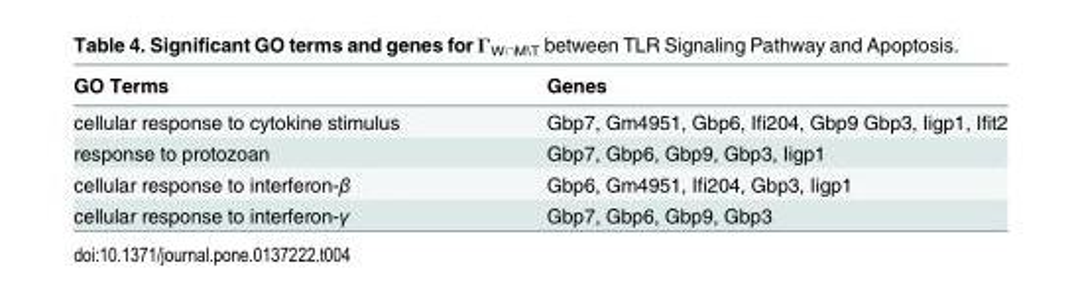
<table><thead><tr><td>GO Terms</td><td>Genes</td></tr></thead><tbody><tr><td>cellular response to cytokine stimulus</td><td>Gbp7, Gm4951, Gbp6, Ifi204, Gbp9 Gbp3, Iigp1, Ifit2</td></tr><tr><td>response to protozoan</td><td>Gbp7, Gbp6, Gbp9, Gbp3, Iigp1</td></tr><tr><td>cellular response to interferon-β</td><td>Gbp6, Gm4951, Ifi204, Gbp3, Iigp1</td></tr><tr><td>cellular response to interferon-γ</td><td>Gbp7, Gbp6, Gbp9, Gbp3</td></tr></tbody></table>